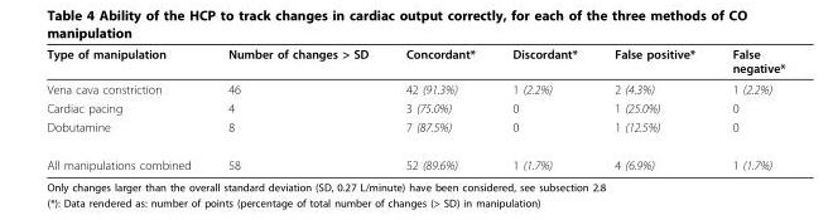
<table><thead><tr><td>Type of manipulation</td><td>Number of changes &gt; SD</td><td>Concordant*</td><td>Discordant*</td><td>False positive*</td><td>False negative*</td></tr></thead><tbody><tr><td>Vena cava constriction</td><td>46</td><td>42 (91.3%)</td><td>1 (2.2%)</td><td>2 (4.3%)</td><td>1 (2.2%)</td></tr><tr><td>Cardiac pacing</td><td>4</td><td>3 (75.0%)</td><td>0</td><td>1 (25.0%)</td><td>0</td></tr><tr><td>Dobutamine</td><td>8</td><td>7 (87.5%)</td><td>0</td><td>1 (12.5%)</td><td>0</td></tr><tr><td>All manipulations combined</td><td>58</td><td>52 (89.6%)</td><td>1 (1.7%)</td><td>4 (6.9%)</td><td>1 (1.7%)</td></tr></tbody></table>